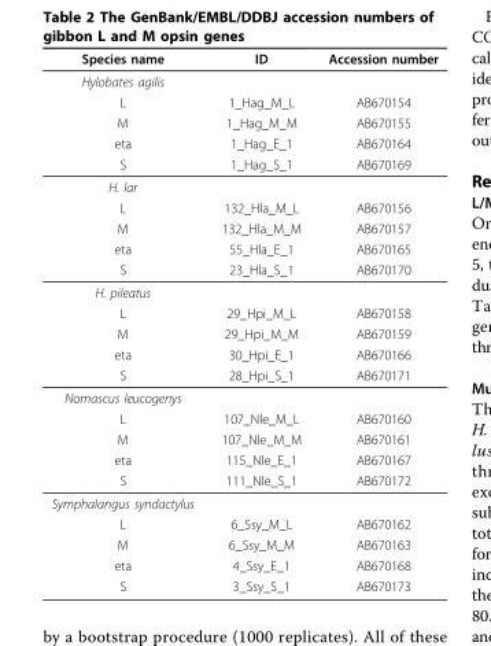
<table><thead><tr><td>Species name</td><td>ID</td><td>Accession number</td></tr></thead><tbody><tr><td colspan="3">Hylobates agilis</td></tr><tr><td>L</td><td>1_Hag_M_L</td><td>AB670154</td></tr><tr><td>M</td><td>1_Hag_M_M</td><td>AB670155</td></tr><tr><td>eta</td><td>1_Hag_E_1</td><td>AB670164</td></tr><tr><td>S</td><td>1_Hag_S_1</td><td>AB670169</td></tr><tr><td colspan="3">H. lar</td></tr><tr><td>L</td><td>132_Hla_M_L</td><td>AB670156</td></tr><tr><td>M</td><td>132_Hla_M_M</td><td>AB670157</td></tr><tr><td>eta</td><td>55_Hla_E_1</td><td>AB670165</td></tr><tr><td>S</td><td>23_Hla_S_1</td><td>AB670170</td></tr><tr><td colspan="3">H. pileatus</td></tr><tr><td>L</td><td>29_Hpi_M_L</td><td>AB670158</td></tr><tr><td>M</td><td>29_Hpi_M_M</td><td>AB670159</td></tr><tr><td>eta</td><td>30_Hpi_E_1</td><td>AB670166</td></tr><tr><td>S</td><td>28_Hpi_S_1</td><td>AB670171</td></tr><tr><td colspan="3">Nomascus leucogenys</td></tr><tr><td>L</td><td>107_Nle_M_L</td><td>AB670160</td></tr><tr><td>M</td><td>107_Nle_M_M</td><td>AB670161</td></tr><tr><td>eta</td><td>115_Nle_E_1</td><td>AB670167</td></tr><tr><td>S</td><td>111_Nle_S_1</td><td>AB670172</td></tr><tr><td colspan="3">Symphalangus syndactylus</td></tr><tr><td>L</td><td>6_Ssy_M_L</td><td>AB670162</td></tr><tr><td>M</td><td>6_Ssy_M_M</td><td>AB670163</td></tr><tr><td>eta</td><td>4_Ssy_E_1</td><td>AB670168</td></tr><tr><td>S</td><td>3_Ssy_S_1</td><td>AB670173</td></tr></tbody></table>